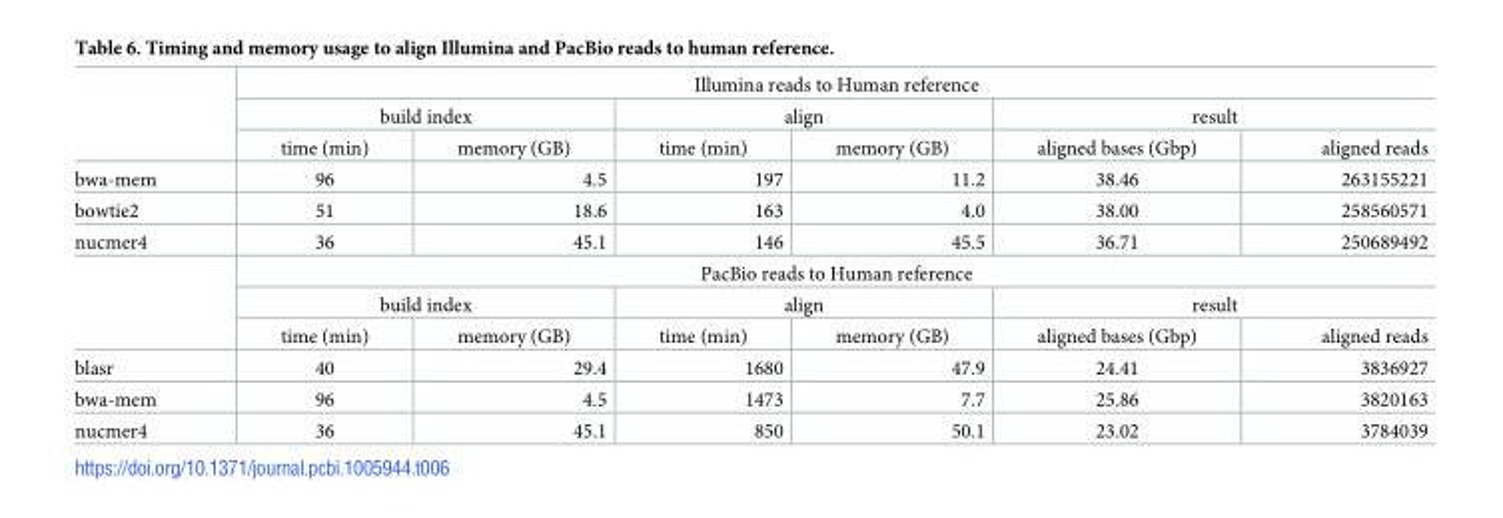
<table><thead><tr><td rowspan="3"></td><td colspan="6">Illumina reads to Human reference</td></tr><tr><td colspan="2">build index</td><td colspan="2">align</td><td colspan="2">result</td></tr><tr><td>time (min)</td><td>memory (GB)</td><td>time (min)</td><td>memory (GB)</td><td>aligned bases (Gbp)</td><td>aligned reads</td></tr></thead><tbody><tr><td>bwa-mem</td><td>96</td><td>4.5</td><td>197</td><td>11.2</td><td>38.46</td><td>263155221</td></tr><tr><td>bowtie2</td><td>51</td><td>18.6</td><td>163</td><td>4.0</td><td>38.00</td><td>258560571</td></tr><tr><td rowspan="4">nucmer4</td><td>36</td><td>45.1</td><td>146</td><td>45.5</td><td>36.71</td><td>250689492</td></tr><tr><td colspan="6">PacBio reads to Human reference</td></tr><tr><td colspan="2">build index</td><td colspan="2">align</td><td colspan="2">result</td></tr><tr><td>time (min)</td><td>memory (GB)</td><td>time (min)</td><td>memory (GB)</td><td>aligned bases (Gbp)</td><td>aligned reads</td></tr><tr><td>blasr</td><td>40</td><td>29.4</td><td>1680</td><td>47.9</td><td>24.41</td><td>3836927</td></tr><tr><td>bwa-mem</td><td>96</td><td>4.5</td><td>1473</td><td>7.7</td><td>25.86</td><td>3820163</td></tr><tr><td>nucmer4</td><td>36</td><td>45.1</td><td>850</td><td>50.1</td><td>23.02</td><td>3784039</td></tr></tbody></table>